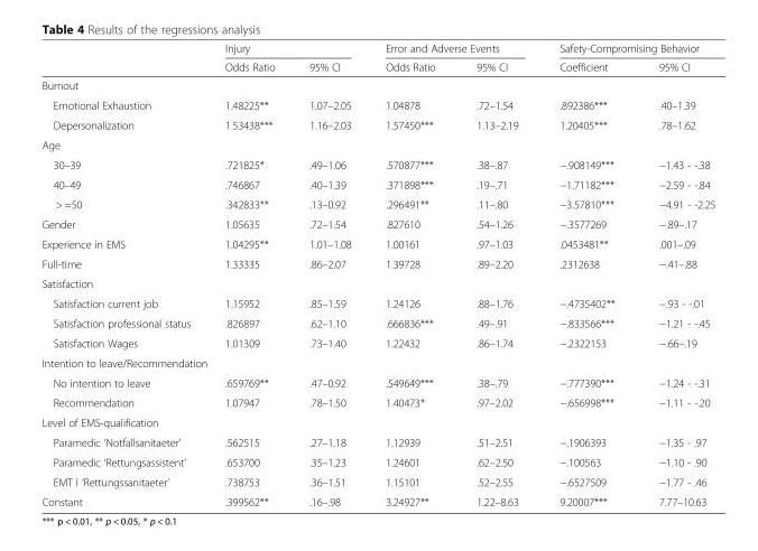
<table><thead><tr><td rowspan="2"></td><td colspan="2">Injury</td><td colspan="2">Error and Adverse Events</td><td colspan="2">Safety-Compromising Behavior</td></tr><tr><td>Odds Ratio</td><td>95% CI</td><td>Odds Ratio</td><td>95% CI</td><td>Coefficient</td><td>95% CI</td></tr></thead><tbody><tr><td colspan="7">Burnout</td></tr><tr><td>Emotional Exhaustion</td><td>1.48225**</td><td>1.07–2.05</td><td>1.04878</td><td>.72–1.54</td><td>.892386***</td><td>.40–1.39</td></tr><tr><td>Depersonalization</td><td>1.53438***</td><td>1.16–2.03</td><td>1.57450***</td><td>1.13–2.19</td><td>1.20405***</td><td>.78–1.62</td></tr><tr><td colspan="7">Age</td></tr><tr><td>30–39</td><td>.721825*</td><td>.49–1.06</td><td>.570877***</td><td>.38–.87</td><td>−.908149***</td><td>−1.43 - -.38</td></tr><tr><td>40–49</td><td>.746867</td><td>.40–1.39</td><td>.371898***</td><td>.19–.71</td><td>−1.71182***</td><td>−2.59 - -.84</td></tr><tr><td>&gt; =50</td><td>.342833**</td><td>.13–0.92</td><td>.296491**</td><td>.11–.80</td><td>−3.57810***</td><td>−4.91 - -2.25</td></tr><tr><td>Gender</td><td>1.05635</td><td>.72–1.54</td><td>.827610</td><td>.54–1.26</td><td>−.3577269</td><td>−.89–.17</td></tr><tr><td>Experience in EMS</td><td>1.04295**</td><td>1.01–1.08</td><td>1.00161</td><td>.97–1.03</td><td>.0453481**</td><td>.001–.09</td></tr><tr><td>Full-time</td><td>1.33335</td><td>.86–2.07</td><td>1.39728</td><td>.89–2.20</td><td>.2312638</td><td>−.41–.88</td></tr><tr><td colspan="7">Satisfaction</td></tr><tr><td>Satisfaction current job</td><td>1.15952</td><td>.85–1.59</td><td>1.24126</td><td>.88–1.76</td><td>−.4735402**</td><td>−.93 - -.01</td></tr><tr><td>Satisfaction professional status</td><td>.826897</td><td>.62–1.10</td><td>.666836***</td><td>.49–.91</td><td>−.833566***</td><td>−1.21 - -.45</td></tr><tr><td>Satisfaction Wages</td><td>1.01309</td><td>.73–1.40</td><td>1.22432</td><td>.86–1.74</td><td>−.2322153</td><td>−.66–.19</td></tr><tr><td colspan="7">Intention to leave/Recommendation</td></tr><tr><td>No intention to leave</td><td>.659769**</td><td>.47–0.92</td><td>.549649***</td><td>.38–.79</td><td>−.777390***</td><td>−1.24 - -.31</td></tr><tr><td>Recommendation</td><td>1.07947</td><td>.78–1.50</td><td>1.40473*</td><td>.97–2.02</td><td>−.656998***</td><td>−1.11 - -.20</td></tr><tr><td colspan="7">Level of EMS-qualification</td></tr><tr><td>Paramedic ‘Notfallsanitaeter’</td><td>.562515</td><td>.27–1.18</td><td>1.12939</td><td>.51–2.51</td><td>−.1906393</td><td>−1.35 - .97</td></tr><tr><td>Paramedic ‘Rettungsassistent’</td><td>.653700</td><td>.35–1.23</td><td>1.24601</td><td>.62–2.50</td><td>−.100563</td><td>−1.10 - .90</td></tr><tr><td>EMT I ‘Rettungssanitaeter’</td><td>.738753</td><td>.36–1.51</td><td>1.15101</td><td>.52–2.55</td><td>−.6527509</td><td>−1.77 - .46</td></tr><tr><td>Constant</td><td>.399562**</td><td>.16–.98</td><td>3.24927**</td><td>1.22–8.63</td><td>9.20007***</td><td>7.77–10.63</td></tr></tbody></table>